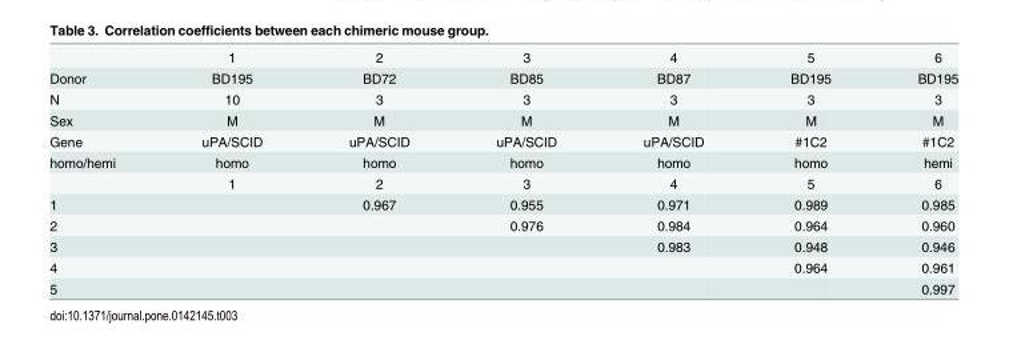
<table><thead><tr><td></td><td>1</td><td>2</td><td>3</td><td>4</td><td>5</td><td>6</td></tr></thead><tbody><tr><td>Donor</td><td>BD195</td><td>BD72</td><td>BD85</td><td>BD87</td><td>BD195</td><td>BD195</td></tr><tr><td>N</td><td>10</td><td>3</td><td>3</td><td>3</td><td>3</td><td>3</td></tr><tr><td>Sex</td><td>M</td><td>M</td><td>M</td><td>M</td><td>M</td><td>M</td></tr><tr><td>Gene</td><td>uPA/SCID</td><td>uPA/SCID</td><td>uPA/SCID</td><td>uPA/SCID</td><td>#1C2</td><td>#1C2</td></tr><tr><td rowspan="2">homo/hemi</td><td>homo</td><td>homo</td><td>homo</td><td>homo</td><td>homo</td><td>hemi</td></tr><tr><td>1</td><td>2</td><td>3</td><td>4</td><td>5</td><td>6</td></tr><tr><td>1</td><td></td><td>0.967</td><td>0.955</td><td>0.971</td><td>0.989</td><td>0.985</td></tr><tr><td>2</td><td></td><td></td><td>0.976</td><td>0.984</td><td>0.964</td><td>0.960</td></tr><tr><td>3</td><td></td><td></td><td></td><td>0.983</td><td>0.948</td><td>0.946</td></tr><tr><td>4</td><td></td><td></td><td></td><td></td><td>0.964</td><td>0.961</td></tr><tr><td>5</td><td></td><td></td><td></td><td></td><td></td><td>0.997</td></tr></tbody></table>